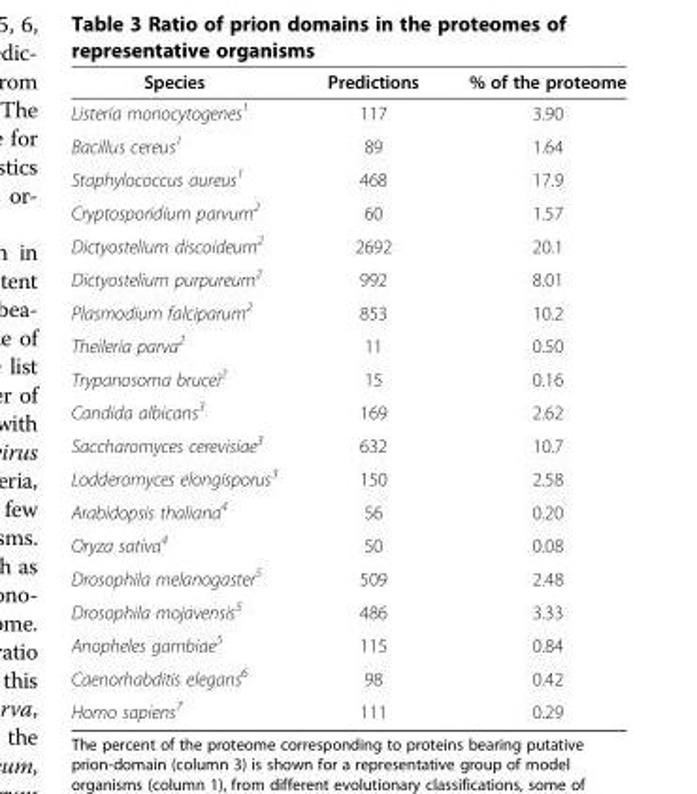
<table><thead><tr><td>Species</td><td>Predictions</td><td>% of the proteome</td></tr></thead><tbody><tr><td>Listeria monocytogenes<sup>1</sup></td><td>117</td><td>3.90</td></tr><tr><td>Bacillus cereus<sup>1</sup></td><td>89</td><td>1.64</td></tr><tr><td>Staphylococcus aureus<sup>1</sup></td><td>468</td><td>17.9</td></tr><tr><td>Cryptosporidium parvum<sup>2</sup></td><td>60</td><td>1.57</td></tr><tr><td>Dictyostelium discoideum<sup>2</sup></td><td>2692</td><td>20.1</td></tr><tr><td>Dictyostelium purpureum<sup>2</sup></td><td>992</td><td>8.01</td></tr><tr><td>Plasmodium falciparum<sup>2</sup></td><td>853</td><td>10.2</td></tr><tr><td>Theileria parva<sup>2</sup></td><td>11</td><td>0.50</td></tr><tr><td>Trypanosoma brucei<sup>2</sup></td><td>15</td><td>0.16</td></tr><tr><td>Candida albicans<sup>3</sup></td><td>169</td><td>2.62</td></tr><tr><td>Saccharomyces cerevisiae<sup>3</sup></td><td>632</td><td>10.7</td></tr><tr><td>Lodderomyces elongisporus<sup>3</sup></td><td>150</td><td>2.58</td></tr><tr><td>Arabidopsis thaliana<sup>4</sup></td><td>56</td><td>0.20</td></tr><tr><td>Oryza sativa<sup>4</sup></td><td>50</td><td>0.08</td></tr><tr><td>Drosophila melanogaster<sup>5</sup></td><td>509</td><td>2.48</td></tr><tr><td>Drosophila mojavensis<sup>5</sup></td><td>486</td><td>3.33</td></tr><tr><td>Anopheles gambiae<sup>5</sup></td><td>115</td><td>0.84</td></tr><tr><td>Caenorhabditis elegans<sup>6</sup></td><td>98</td><td>0.42</td></tr><tr><td>Homo sapiens<sup>7</sup></td><td>111</td><td>0.29</td></tr></tbody></table>